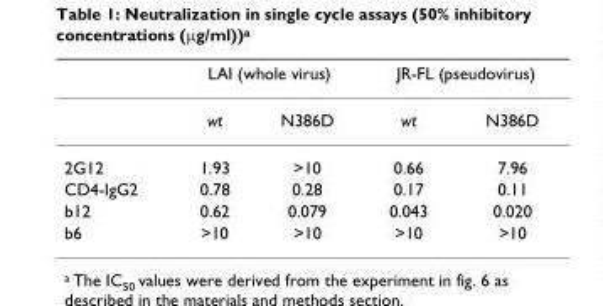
<table><thead><tr><td rowspan="2"></td><td colspan="2">LAI (whole virus)</td><td colspan="2">JR-FL (pseudovirus)</td></tr><tr><td>wt</td><td>N386D</td><td>wt</td><td>N386D</td></tr></thead><tbody><tr><td>2G12</td><td>1.93</td><td>&gt;10</td><td>0.66</td><td>7.96</td></tr><tr><td>CD4-IgG2</td><td>0.78</td><td>0.28</td><td>0.17</td><td>0.11</td></tr><tr><td>b12</td><td>0.62</td><td>0.079</td><td>0.043</td><td>0.020</td></tr><tr><td>b6</td><td>&gt;10</td><td>&gt;10</td><td>&gt;10</td><td>&gt;10</td></tr></tbody></table>